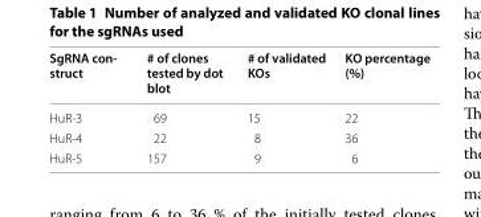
<table><thead><tr><td>SgRNA con‑ struct</td><td># of clones tested by dot blot</td><td># of validated KOs</td><td>KO percentage (%)</td></tr></thead><tbody><tr><td>HuR-3</td><td>69</td><td>15</td><td>22</td></tr><tr><td>HuR-4</td><td>22</td><td>8</td><td>36</td></tr><tr><td>HuR-5</td><td>157</td><td>9</td><td>6</td></tr></tbody></table>